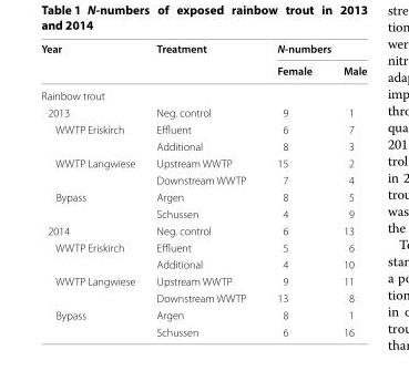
<table><thead><tr><td rowspan="2">Year</td><td rowspan="2">Treatment</td><td colspan="2">N-numbers</td></tr><tr><td>Female</td><td>Male</td></tr></thead><tbody><tr><td colspan="4">Rainbow trout</td></tr><tr><td>2013</td><td>Neg. control</td><td>9</td><td>1</td></tr><tr><td rowspan="2">WWTP Eriskirch</td><td>Effluent</td><td>6</td><td>7</td></tr><tr><td>Additional</td><td>8</td><td>3</td></tr><tr><td rowspan="2">WWTP Langwiese</td><td>Upstream WWTP</td><td>15</td><td>2</td></tr><tr><td>Downstream WWTP</td><td>7</td><td>4</td></tr><tr><td rowspan="2">Bypass</td><td>Argen</td><td>8</td><td>5</td></tr><tr><td>Schussen</td><td>4</td><td>9</td></tr><tr><td>2014</td><td>Neg. control</td><td>6</td><td>13</td></tr><tr><td rowspan="2">WWTP Eriskirch</td><td>Effluent</td><td>5</td><td>6</td></tr><tr><td>Additional</td><td>4</td><td>10</td></tr><tr><td rowspan="2">WWTP Langwiese</td><td>Upstream WWTP</td><td>9</td><td>11</td></tr><tr><td>Downstream WWTP</td><td>13</td><td>8</td></tr><tr><td rowspan="2">Bypass</td><td>Argen</td><td>8</td><td>1</td></tr><tr><td>Schussen</td><td>6</td><td>16</td></tr></tbody></table>